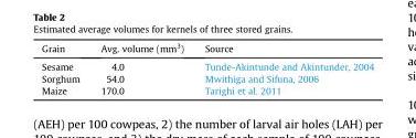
<table><thead><tr><td>Grain</td><td>Avg. volume (mm<sup>3</sup>)</td><td>Source</td></tr></thead><tbody><tr><td>Sesame</td><td>4.0</td><td>Tunde-Akintunde and Akintunder, 2004</td></tr><tr><td>Sorghum</td><td>54.0</td><td>Mwithiga and Sifuna, 2006</td></tr><tr><td>Maize</td><td>170.0</td><td>Tarighi et al. 2011</td></tr></tbody></table>